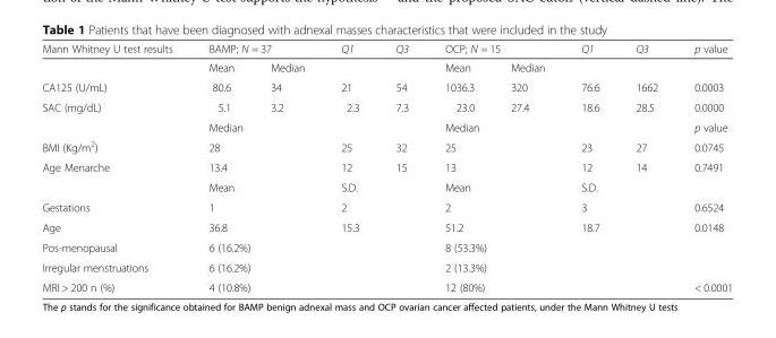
<table><thead><tr><td rowspan="2">Mann Whitney U test results</td><td colspan="2">BAMP; N = 37</td><td rowspan="2">Q1</td><td rowspan="2">Q3</td><td colspan="2">OCP; N = 15</td><td rowspan="2">Q1</td><td rowspan="2">Q3</td><td rowspan="2">p value</td></tr><tr><td>Mean</td><td>Median</td><td>Mean</td><td>Median</td></tr></thead><tbody><tr><td>CA125 (U/mL)</td><td>80.6</td><td>34</td><td>21</td><td>54</td><td>1036.3</td><td>320</td><td>76.6</td><td>1662</td><td>0.0003</td></tr><tr><td rowspan="2">SAC (mg/dL)</td><td>5.1</td><td>3.2</td><td>2.3</td><td>7.3</td><td>23.0</td><td>27.4</td><td>18.6</td><td>28.5</td><td>0.0000</td></tr><tr><td colspan="2">Median</td><td colspan="2"></td><td colspan="2">Median</td><td colspan="2"></td><td>p value</td></tr><tr><td>BMI (Kg/m<sup>2</sup>)</td><td colspan="2">28</td><td>25</td><td>32</td><td colspan="2">25</td><td>23</td><td>27</td><td>0.0745</td></tr><tr><td rowspan="2">Age Menarche</td><td colspan="2">13.4</td><td>12</td><td>15</td><td colspan="2">13</td><td>12</td><td>14</td><td>0.7491</td></tr><tr><td colspan="2">Mean</td><td colspan="2">S.D.</td><td colspan="2">Mean</td><td colspan="2">S.D.</td><td></td></tr><tr><td>Gestations</td><td colspan="2">1</td><td colspan="2">2</td><td colspan="2">2</td><td colspan="2">3</td><td>0.6524</td></tr><tr><td>Age</td><td colspan="2">36.8</td><td colspan="2">15.3</td><td colspan="2">51.2</td><td colspan="2">18.7</td><td>0.0148</td></tr><tr><td>Pos-menopausal</td><td colspan="2">6 (16.2%)</td><td colspan="2"></td><td colspan="2">8 (53.3%)</td><td colspan="2"></td><td></td></tr><tr><td>Irregular menstruations</td><td colspan="2">6 (16.2%)</td><td colspan="2"></td><td colspan="2">2 (13.3%)</td><td colspan="2"></td><td></td></tr><tr><td>MRI &gt; 200 n (%)</td><td colspan="2">4 (10.8%)</td><td colspan="2"></td><td colspan="2">12 (80%)</td><td colspan="2"></td><td>&lt; 0.0001</td></tr></tbody></table>